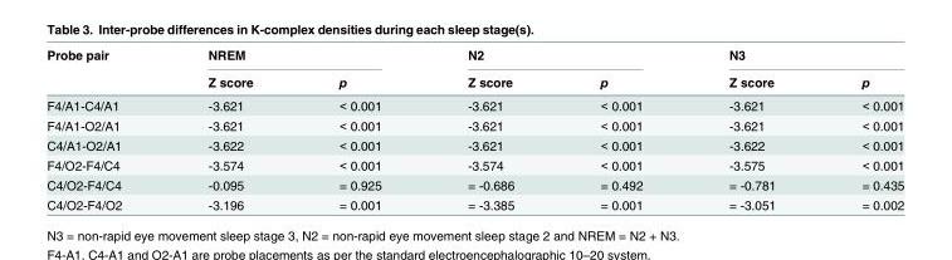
<table><thead><tr><td rowspan="2">Probe pair</td><td colspan="2">NREM</td><td colspan="2">N2</td><td colspan="2">N3</td></tr><tr><td>Z score</td><td>p</td><td>Z score</td><td>p</td><td>Z score</td><td>p</td></tr></thead><tbody><tr><td>F4/A1-C4/A1</td><td>-3.621</td><td>&lt; 0.001</td><td>-3.621</td><td>&lt; 0.001</td><td>-3.621</td><td>&lt; 0.001</td></tr><tr><td>F4/A1-O2/A1</td><td>-3.621</td><td>&lt; 0.001</td><td>-3.621</td><td>&lt; 0.001</td><td>-3.621</td><td>&lt; 0.001</td></tr><tr><td>C4/A1-O2/A1</td><td>-3.622</td><td>&lt; 0.001</td><td>-3.621</td><td>&lt; 0.001</td><td>-3.622</td><td>&lt; 0.001</td></tr><tr><td>F4/O2-F4/C4</td><td>-3.574</td><td>&lt; 0.001</td><td>-3.574</td><td>&lt; 0.001</td><td>-3.575</td><td>&lt; 0.001</td></tr><tr><td>C4/O2-F4/C4</td><td>-0.095</td><td>= 0.925</td><td>= -0.686</td><td>= 0.492</td><td>= -0.781</td><td>= 0.435</td></tr><tr><td>C4/O2-F4/O2</td><td>-3.196</td><td>= 0.001</td><td>= -3.385</td><td>= 0.001</td><td>= -3.051</td><td>= 0.002</td></tr></tbody></table>